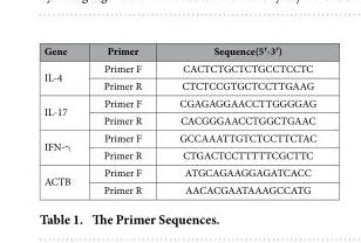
<table><thead><tr><td>Gene</td><td>Primer</td><td>Sequence(5′-3′)</td></tr></thead><tbody><tr><td rowspan="2">IL-4</td><td>Primer F</td><td>CACTCTGCTCTGCCTCCTC</td></tr><tr><td>Primer R</td><td>CTCTCCGTGCTCCTTGAAG</td></tr><tr><td rowspan="2">IL-17</td><td>Primer F</td><td>CGAGAGGAACCTTGGGGAG</td></tr><tr><td>Primer R</td><td>CACGGGAACCTGGCTGAAC</td></tr><tr><td rowspan="2">IFN-γ</td><td>Primer F</td><td>GCCAAATTGTCTCCTTCTAC</td></tr><tr><td>Primer R</td><td>CTGACTCCTTTTTCGCTTC</td></tr><tr><td rowspan="2">ACTB</td><td>Primer F</td><td>ATGCAGAAGGAGATCACC</td></tr><tr><td>Primer R</td><td>AACACGAATAAAGCCATG</td></tr></tbody></table>